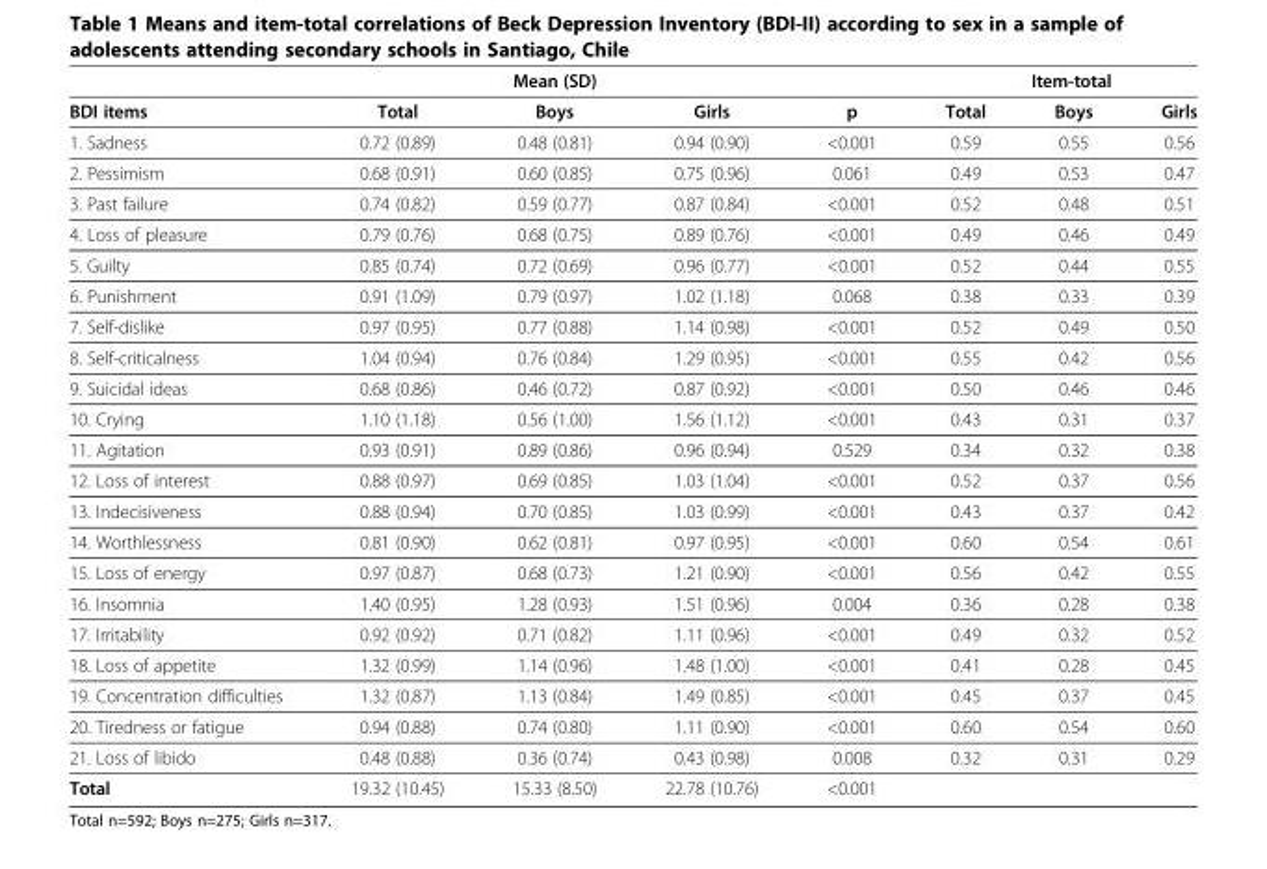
<table><thead><tr><td rowspan="2">BDI items</td><td rowspan="2">Total</td><td rowspan="2">Mean (SD) Boys</td><td rowspan="2">Girls</td><td rowspan="2">p</td><td colspan="3">Item-total</td></tr><tr><td>Total</td><td>Boys</td><td>Girls</td></tr></thead><tbody><tr><td>1. Sadness</td><td>0.72 (0.89)</td><td>0.48 (0.81)</td><td>0.94 (0.90)</td><td>&lt;0.001</td><td>0.59</td><td>0.55</td><td>0.56</td></tr><tr><td>2. Pessimism</td><td>0.68 (0.91)</td><td>0.60 (0.85)</td><td>0.75 (0.96)</td><td>0.061</td><td>0.49</td><td>0.53</td><td>0.47</td></tr><tr><td>3. Past failure</td><td>0.74 (0.82)</td><td>0.59 (0.77)</td><td>0.87 (0.84)</td><td>&lt;0.001</td><td>0.52</td><td>0.48</td><td>0.51</td></tr><tr><td>4. Loss of pleasure</td><td>0.79 (0.76)</td><td>0.68 (0.75)</td><td>0.89 (0.76)</td><td>&lt;0.001</td><td>0.49</td><td>0.46</td><td>0.49</td></tr><tr><td>5. Guilty</td><td>0.85 (0.74)</td><td>0.72 (0.69)</td><td>0.96 (0.77)</td><td>&lt;0.001</td><td>0.52</td><td>0.44</td><td>0.55</td></tr><tr><td>6. Punishment</td><td>0.91 (1.09)</td><td>0.79 (0.97)</td><td>1.02 (1.18)</td><td>0.068</td><td>0.38</td><td>0.33</td><td>0.39</td></tr><tr><td>7. Self-dislike</td><td>0.97 (0.95)</td><td>0.77 (0.88)</td><td>1.14 (0.98)</td><td>&lt;0.001</td><td>0.52</td><td>0.49</td><td>0.50</td></tr><tr><td>8. Self-criticalness</td><td>1.04 (0.94)</td><td>0.76 (0.84)</td><td>1.29 (0.95)</td><td>&lt;0.001</td><td>0.55</td><td>0.42</td><td>0.56</td></tr><tr><td>9. Suicidal ideas</td><td>0.68 (0.86)</td><td>0.46 (0.72)</td><td>0.87 (0.92)</td><td>&lt;0.001</td><td>0.50</td><td>0.46</td><td>0.46</td></tr><tr><td>10. Crying</td><td>1.10 (1.18)</td><td>0.56 (1.00)</td><td>1.56 (1.12)</td><td>&lt;0.001</td><td>0.43</td><td>0.31</td><td>0.37</td></tr><tr><td>11. Agitation</td><td>0.93 (0.91)</td><td>0.89 (0.86)</td><td>0.96 (0.94)</td><td>0.529</td><td>0.34</td><td>0.32</td><td>0.38</td></tr><tr><td>12. Loss of interest</td><td>0.88 (0.97)</td><td>0.69 (0.85)</td><td>1.03 (1.04)</td><td>&lt;0.001</td><td>0.52</td><td>0.37</td><td>0.56</td></tr><tr><td>13. Indecisiveness</td><td>0.88 (0.94)</td><td>0.70 (0.85)</td><td>1.03 (0.99)</td><td>&lt;0.001</td><td>0.43</td><td>0.37</td><td>0.42</td></tr><tr><td>14. Worthlessness</td><td>0.81 (0.90)</td><td>0.62 (0.81)</td><td>0.97 (0.95)</td><td>&lt;0.001</td><td>0.60</td><td>0.54</td><td>0.61</td></tr><tr><td>15. Loss of energy</td><td>0.97 (0.87)</td><td>0.68 (0.73)</td><td>1.21 (0.90)</td><td>&lt;0.001</td><td>0.56</td><td>0.42</td><td>0.55</td></tr><tr><td>16. Insomnia</td><td>1.40 (0.95)</td><td>1.28 (0.93)</td><td>1.51 (0.96)</td><td>0.004</td><td>0.36</td><td>0.28</td><td>0.38</td></tr><tr><td>17. Irritability</td><td>0.92 (0.92)</td><td>0.71 (0.82)</td><td>1.11 (0.96)</td><td>&lt;0.001</td><td>0.49</td><td>0.32</td><td>0.52</td></tr><tr><td>18. Loss of appetite</td><td>1.32 (0.99)</td><td>1.14 (0.96)</td><td>1.48 (1.00)</td><td>&lt;0.001</td><td>0.41</td><td>0.28</td><td>0.45</td></tr><tr><td>19. Concentration difficulties</td><td>1.32 (0.87)</td><td>1.13 (0.84)</td><td>1.49 (0.85)</td><td>&lt;0.001</td><td>0.45</td><td>0.37</td><td>0.45</td></tr><tr><td>20. Tiredness or fatigue</td><td>0.94 (0.88)</td><td>0.74 (0.80)</td><td>1.11 (0.90)</td><td>&lt;0.001</td><td>0.60</td><td>0.54</td><td>0.60</td></tr><tr><td>21. Loss of libido</td><td>0.48 (0.88)</td><td>0.36 (0.74)</td><td>0.43 (0.98)</td><td>0.008</td><td>0.32</td><td>0.31</td><td>0.29</td></tr><tr><td>Total</td><td>19.32 (10.45)</td><td>15.33 (8.50)</td><td>22.78 (10.76)</td><td>&lt;0.001</td><td></td><td></td><td></td></tr></tbody></table>